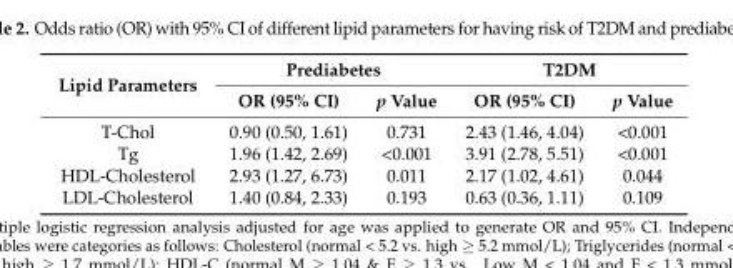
<table><thead><tr><td rowspan="2">Lipid Parameters</td><td colspan="2">Prediabetes</td><td colspan="2">T2DM</td></tr><tr><td>OR (95% CI)</td><td>p Value</td><td>OR (95% CI)</td><td>p Value</td></tr></thead><tbody><tr><td>T-Chol</td><td>0.90 (0.50, 1.61)</td><td>0.731</td><td>2.43 (1.46, 4.04)</td><td>&lt;0.001</td></tr><tr><td>Tg</td><td>1.96 (1.42, 2.69)</td><td>&lt;0.001</td><td>3.91 (2.78, 5.51)</td><td>&lt;0.001</td></tr><tr><td>HDL-Cholesterol</td><td>2.93 (1.27, 6.73)</td><td>0.011</td><td>2.17 (1.02, 4.61)</td><td>0.044</td></tr><tr><td>LDL-Cholesterol</td><td>1.40 (0.84, 2.33)</td><td>0.193</td><td>0.63 (0.36, 1.11)</td><td>0.109</td></tr></tbody></table>